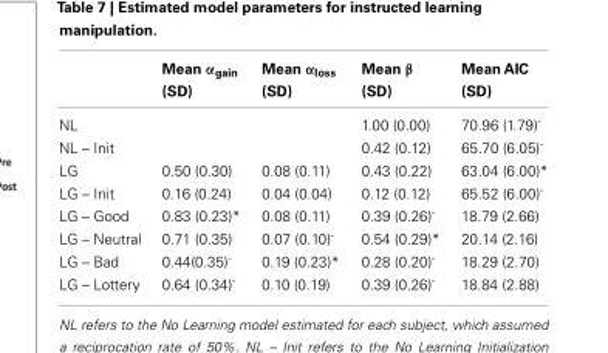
<table><thead><tr><td></td><td>Mean α<sub>gain</sub> (SD)</td><td>Mean α<sub>loss</sub> (SD)</td><td>Mean β (SD)</td><td>Mean AIC (SD)</td></tr></thead><tbody><tr><td>NL</td><td></td><td></td><td>1.00 (0.00)</td><td>70.96 (1.79)<sup>-</sup></td></tr><tr><td>NL – Init</td><td></td><td></td><td>0.42 (0.12)</td><td>65.70 (6.05)<sup>-</sup></td></tr><tr><td>LG</td><td>0.50 (0.30)</td><td>0.08 (0.11)</td><td>0.43 (0.22)</td><td>63.04 (6.00)*</td></tr><tr><td>LG – Init</td><td>0.16 (0.24)</td><td>0.04 (0.04)</td><td>0.12 (0.12)</td><td>65.52 (6.00)<sup>-</sup></td></tr><tr><td>LG – Good</td><td>0.83 (0.23)*</td><td>0.08 (0.11)</td><td>0.39 (0.26)<sup>-</sup></td><td>18.79 (2.66)</td></tr><tr><td>LG – Neutral</td><td>0.71 (0.35)</td><td>0.07 (0.10)<sup>-</sup></td><td>0.54 (0.29)*</td><td>20.14 (2.16)</td></tr><tr><td>LG – Bad</td><td>0.44(0.35)<sup>-</sup></td><td>0.19 (0.23)*</td><td>0.28 (0.20)<sup>-</sup></td><td>18.29 (2.70)</td></tr><tr><td>LG – Lottery</td><td>0.64 (0.34)<sup>-</sup></td><td>0.10 (0.19)</td><td>0.39 (0.26)<sup>-</sup></td><td>18.84 (2.88)</td></tr></tbody></table>